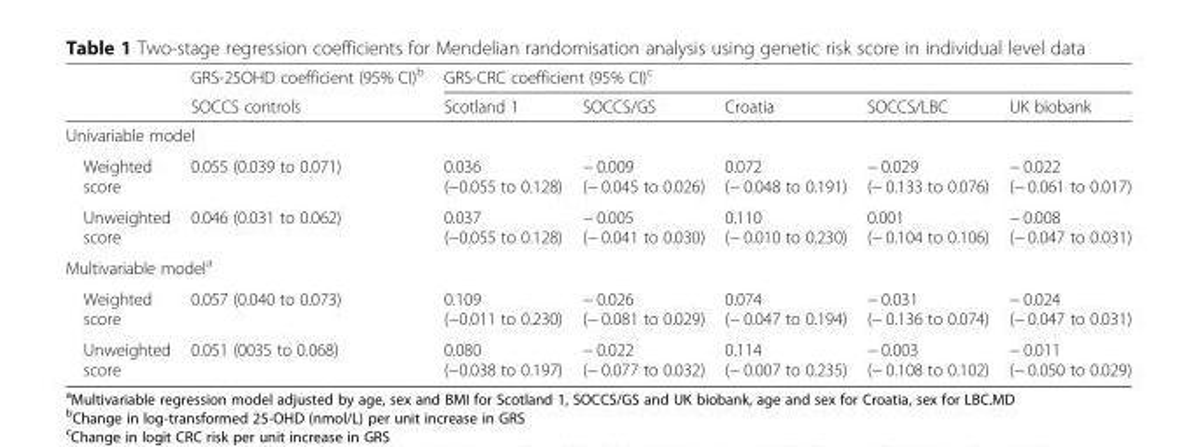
<table><thead><tr><td rowspan="2"></td><td rowspan="2">GRS-25OHD coefficient (95% CI)<sup>b</sup> SOCCS controls</td><td colspan="5">GRS-CRC coefficient (95% CI)<sup>c</sup></td></tr><tr><td>Scotland 1</td><td>SOCCS/GS</td><td>Croatia</td><td>SOCCS/LBC</td><td>UK biobank</td></tr></thead><tbody><tr><td colspan="7">Univariable model</td></tr><tr><td>Weighted score</td><td>0.055 (0.039 to 0.071)</td><td>0.036 (−0.055 to 0.128)</td><td>− 0.009 (− 0.045 to 0.026)</td><td>0.072 (− 0.048 to 0.191)</td><td>− 0.029 (− 0.133 to 0.076)</td><td>− 0.022 (− 0.061 to 0.017)</td></tr><tr><td>Unweighted score</td><td>0.046 (0.031 to 0.062)</td><td>0.037 (−0.055 to 0.128)</td><td>− 0.005 (− 0.041 to 0.030)</td><td>0.110 (− 0.010 to 0.230)</td><td>0.001 (− 0.104 to 0.106)</td><td>− 0.008 (− 0.047 to 0.031)</td></tr><tr><td colspan="7">Multivariable model<sup>a</sup></td></tr><tr><td>Weighted score</td><td>0.057 (0.040 to 0.073)</td><td>0.109 (−0.011 to 0.230)</td><td>− 0.026 (− 0.081 to 0.029)</td><td>0.074 (− 0.047 to 0.194)</td><td>− 0.031 (− 0.136 to 0.074)</td><td>− 0.024 (− 0.047 to 0.031)</td></tr><tr><td>Unweighted score</td><td>0.051 (0035 to 0.068)</td><td>0.080 (−0.038 to 0.197)</td><td>− 0.022 (− 0.077 to 0.032)</td><td>0.114 (− 0.007 to 0.235)</td><td>− 0.003 (− 0.108 to 0.102)</td><td>− 0.011 (− 0.050 to 0.029)</td></tr></tbody></table>